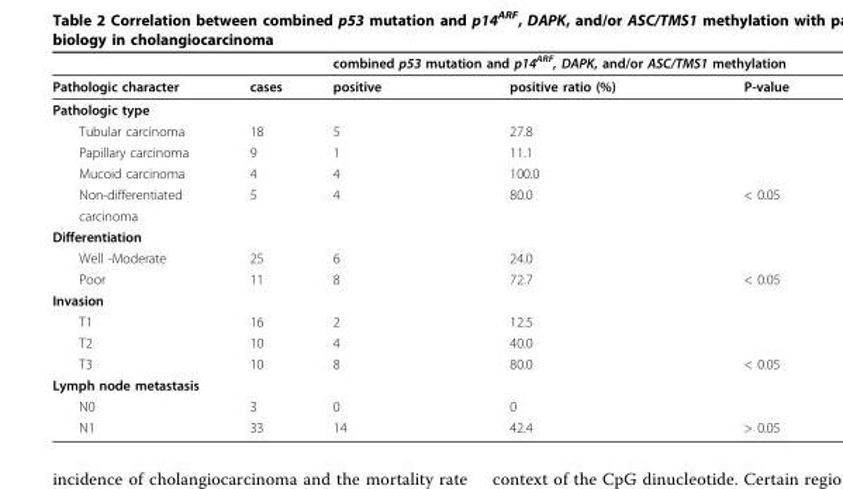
<table><thead><tr><td rowspan="2">Pathologic character</td><td rowspan="2">cases</td><td colspan="3">combined p53 mutation and p14<sup>ARF</sup>, DAPK, and/or ASC/TMS1 methylation</td></tr><tr><td>positive</td><td>positive ratio (%)</td><td>P-value</td></tr></thead><tbody><tr><td colspan="5">Pathologic type</td></tr><tr><td>Tubular carcinoma</td><td>18</td><td>5</td><td>27.8</td><td></td></tr><tr><td>Papillary carcinoma</td><td>9</td><td>1</td><td>11.1</td><td></td></tr><tr><td>Mucoid carcinoma</td><td>4</td><td>4</td><td>100.0</td><td></td></tr><tr><td>Non-differentiated</td><td>5</td><td>4</td><td>80.0</td><td>&lt; 0.05</td></tr><tr><td colspan="5">carcinoma</td></tr><tr><td colspan="5">Differentiation</td></tr><tr><td>Well -Moderate</td><td>25</td><td>6</td><td>24.0</td><td></td></tr><tr><td>Poor</td><td>11</td><td>8</td><td>72.7</td><td>&lt; 0.05</td></tr><tr><td colspan="5">Invasion</td></tr><tr><td>T1</td><td>16</td><td>2</td><td>12.5</td><td></td></tr><tr><td>T2</td><td>10</td><td>4</td><td>40.0</td><td></td></tr><tr><td>T3</td><td>10</td><td>8</td><td>80.0</td><td>&lt; 0.05</td></tr><tr><td colspan="5">Lymph node metastasis</td></tr><tr><td>N0</td><td>3</td><td>0</td><td>0</td><td></td></tr><tr><td>N1</td><td>33</td><td>14</td><td>42.4</td><td>&gt; 0.05</td></tr></tbody></table>